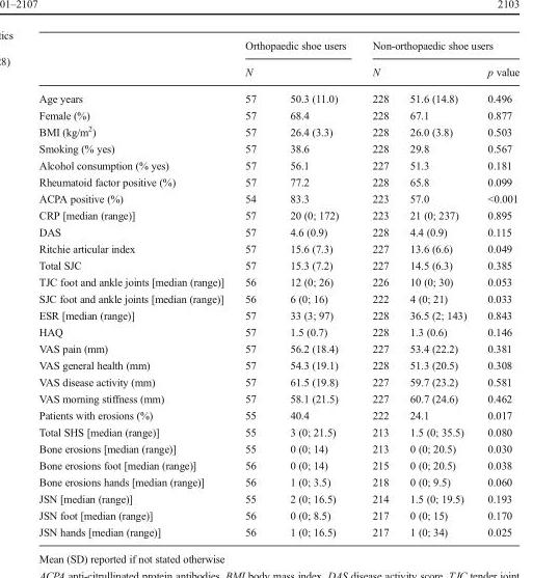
<table><thead><tr><td rowspan="2"></td><td colspan="2">Orthopaedic shoe users</td><td colspan="3">Non-orthopaedic shoe users</td></tr><tr><td>N</td><td></td><td>N</td><td></td><td>p value</td></tr></thead><tbody><tr><td>Age years</td><td>57</td><td>50.3 (11.0)</td><td>228</td><td>51.6 (14.8)</td><td>0.496</td></tr><tr><td>Female (%)</td><td>57</td><td>68.4</td><td>228</td><td>67.1</td><td>0.877</td></tr><tr><td>BMI (kg/m<sup>2</sup>)</td><td>57</td><td>26.4 (3.3)</td><td>228</td><td>26.0 (3.8)</td><td>0.503</td></tr><tr><td>Smoking (% yes)</td><td>57</td><td>38.6</td><td>228</td><td>29.8</td><td>0.567</td></tr><tr><td>Alcohol consumption (% yes)</td><td>57</td><td>56.1</td><td>227</td><td>51.3</td><td>0.181</td></tr><tr><td>Rheumatoid factor positive (%)</td><td>57</td><td>77.2</td><td>228</td><td>65.8</td><td>0.099</td></tr><tr><td>ACPA positive (%)</td><td>54</td><td>83.3</td><td>223</td><td>57.0</td><td>&lt;0.001</td></tr><tr><td>CRP [median (range)]</td><td>57</td><td>20 (0; 172)</td><td>223</td><td>21 (0; 237)</td><td>0.895</td></tr><tr><td>DAS</td><td>57</td><td>4.6 (0.9)</td><td>228</td><td>4.4 (0.9)</td><td>0.115</td></tr><tr><td>Ritchie articular index</td><td>57</td><td>15.6 (7.3)</td><td>227</td><td>13.6 (6.6)</td><td>0.049</td></tr><tr><td>Total SJC</td><td>57</td><td>15.3 (7.2)</td><td>227</td><td>14.5 (6.3)</td><td>0.385</td></tr><tr><td>TJC foot and ankle joints [median (range)]</td><td>56</td><td>12 (0; 26)</td><td>226</td><td>10 (0; 30)</td><td>0.053</td></tr><tr><td>SJC foot and ankle joints [median (range)]</td><td>56</td><td>6 (0; 16)</td><td>222</td><td>4 (0; 21)</td><td>0.033</td></tr><tr><td>ESR [median (range)]</td><td>57</td><td>33 (3; 97)</td><td>228</td><td>36.5 (2; 143)</td><td>0.843</td></tr><tr><td>HAQ</td><td>57</td><td>1.5 (0.7)</td><td>228</td><td>1.3 (0.6)</td><td>0.146</td></tr><tr><td>VAS pain (mm)</td><td>57</td><td>56.2 (18.4)</td><td>227</td><td>53.4 (22.2)</td><td>0.381</td></tr><tr><td>VAS general health (mm)</td><td>57</td><td>54.3 (19.1)</td><td>228</td><td>51.3 (20.5)</td><td>0.308</td></tr><tr><td>VAS disease activity (mm)</td><td>57</td><td>61.5 (19.8)</td><td>227</td><td>59.7 (23.2)</td><td>0.581</td></tr><tr><td>VAS morning stiffness (mm)</td><td>57</td><td>58.1 (21.5)</td><td>227</td><td>60.7 (24.6)</td><td>0.462</td></tr><tr><td>Patients with erosions (%)</td><td>55</td><td>40.4</td><td>222</td><td>24.1</td><td>0.017</td></tr><tr><td>Total SHS [median (range)]</td><td>55</td><td>3 (0; 21.5)</td><td>213</td><td>1.5 (0; 35.5)</td><td>0.080</td></tr><tr><td>Bone erosions [median (range)]</td><td>55</td><td>0 (0; 14)</td><td>213</td><td>0 (0; 20.5)</td><td>0.030</td></tr><tr><td>Bone erosions foot [median (range)]</td><td>56</td><td>0 (0; 14)</td><td>215</td><td>0 (0; 20.5)</td><td>0.038</td></tr><tr><td>Bone erosions hands [median (range)]</td><td>56</td><td>1 (0; 3.5)</td><td>218</td><td>0 (0; 9.5)</td><td>0.060</td></tr><tr><td>JSN [median (range)]</td><td>55</td><td>2 (0; 16.5)</td><td>214</td><td>1.5 (0; 19.5)</td><td>0.193</td></tr><tr><td>JSN foot [median (range)]</td><td>56</td><td>0 (0; 8.5)</td><td>217</td><td>0 (0; 15)</td><td>0.170</td></tr><tr><td>JSN hands [median (range)]</td><td>56</td><td>1 (0; 16.5)</td><td>217</td><td>1 (0; 34)</td><td>0.025</td></tr></tbody></table>